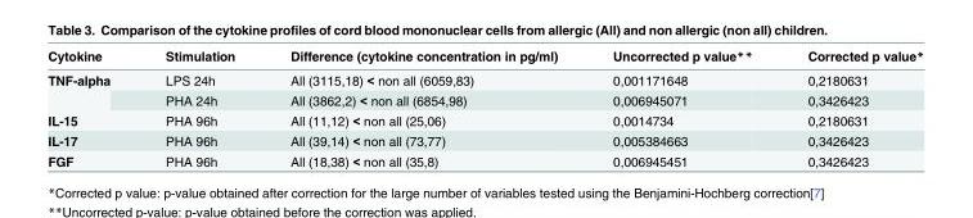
<table><thead><tr><td>Cytokine</td><td>Stimulation</td><td>Difference (cytokine concentration in pg/ml)</td><td>Uncorrected p value**</td><td>Corrected p value*</td></tr></thead><tbody><tr><td rowspan="2">TNF-alpha</td><td>LPS 24h</td><td>All (3115,18) &lt; non all (6059,83)</td><td>0,001171648</td><td>0,2180631</td></tr><tr><td>PHA 24h</td><td>All (3862,2) &lt; non all (6854,98)</td><td>0,006945071</td><td>0,3426423</td></tr><tr><td>IL-15</td><td>PHA 96h</td><td>All (11,12) &lt; non all (25,06)</td><td>0,0014734</td><td>0,2180631</td></tr><tr><td>IL-17</td><td>PHA 96h</td><td>All (39,14) &lt; non all (73,77)</td><td>0,005384663</td><td>0,3426423</td></tr><tr><td>FGF</td><td>PHA 96h</td><td>All (18,38) &lt; non all (35,8)</td><td>0,006945451</td><td>0,3426423</td></tr></tbody></table>